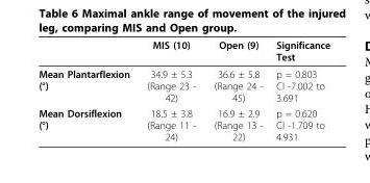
<table><thead><tr><td></td><td>MIS (10)</td><td>Open (9)</td><td>Significance Test</td></tr></thead><tbody><tr><td>Mean Plantarflexion (°)</td><td>34.9 ± 5.3 (Range 23 - 42)</td><td>36.6 ± 5.8 (Range 24 - 45)</td><td>p = 0.803 CI -7.002 to 3.691</td></tr><tr><td>Mean Dorsiflexion (°)</td><td>18.5 ± 3.8 (Range 11 - 24)</td><td>16.9 ± 2.9 (Range 13 - 22)</td><td>p = 0.620 CI -1.709 to 4.931</td></tr></tbody></table>